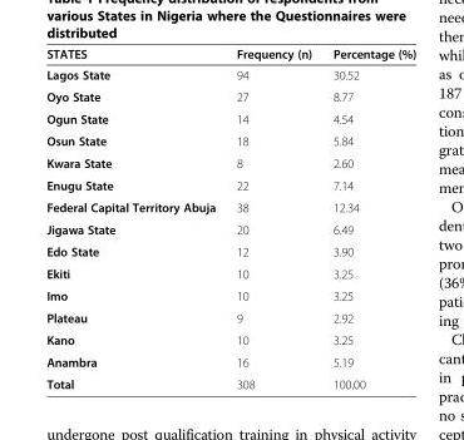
<table><thead><tr><td>STATES</td><td>Frequency (n)</td><td>Percentage (%)</td></tr></thead><tbody><tr><td>Lagos State</td><td>94</td><td>30.52</td></tr><tr><td>Oyo State</td><td>27</td><td>8.77</td></tr><tr><td>Ogun State</td><td>14</td><td>4.54</td></tr><tr><td>Osun State</td><td>18</td><td>5.84</td></tr><tr><td>Kwara State</td><td>8</td><td>2.60</td></tr><tr><td>Enugu State</td><td>22</td><td>7.14</td></tr><tr><td>Federal Capital Territory Abuja</td><td>38</td><td>12.34</td></tr><tr><td>Jigawa State</td><td>20</td><td>6.49</td></tr><tr><td>Edo State</td><td>12</td><td>3.90</td></tr><tr><td>Ekiti</td><td>10</td><td>3.25</td></tr><tr><td>Imo</td><td>10</td><td>3.25</td></tr><tr><td>Plateau</td><td>9</td><td>2.92</td></tr><tr><td>Kano</td><td>10</td><td>3.25</td></tr><tr><td>Anambra</td><td>16</td><td>5.19</td></tr><tr><td>Total</td><td>308</td><td>100.00</td></tr></tbody></table>